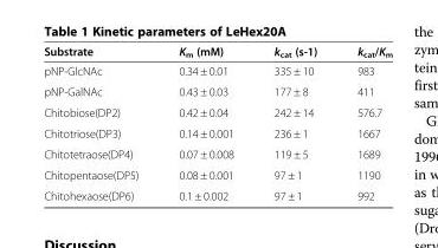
<table><thead><tr><td>Substrate</td><td>K<sub>m</sub> (mM)</td><td>k<sub>cat</sub> (s-1)</td><td>k<sub>cat</sub>/K<sub>m</sub></td></tr></thead><tbody><tr><td>pNP-GlcNAc</td><td>0.34 ± 0.01</td><td>335 ± 10</td><td>983</td></tr><tr><td>pNP-GalNAc</td><td>0.43 ± 0.03</td><td>177 ± 8</td><td>411</td></tr><tr><td>Chitobiose(DP2)</td><td>0.42 ± 0.04</td><td>242 ± 14</td><td>576.7</td></tr><tr><td>Chitotriose(DP3)</td><td>0.14 ± 0.001</td><td>236 ± 1</td><td>1667</td></tr><tr><td>Chitotetraose(DP4)</td><td>0.07 ± 0.008</td><td>119 ± 5</td><td>1689</td></tr><tr><td>Chitopentaose(DP5)</td><td>0.08 ± 0.001</td><td>97 ± 1</td><td>1190</td></tr><tr><td>Chitohexaose(DP6)</td><td>0.1 ± 0.002</td><td>97 ± 1</td><td>992</td></tr></tbody></table>